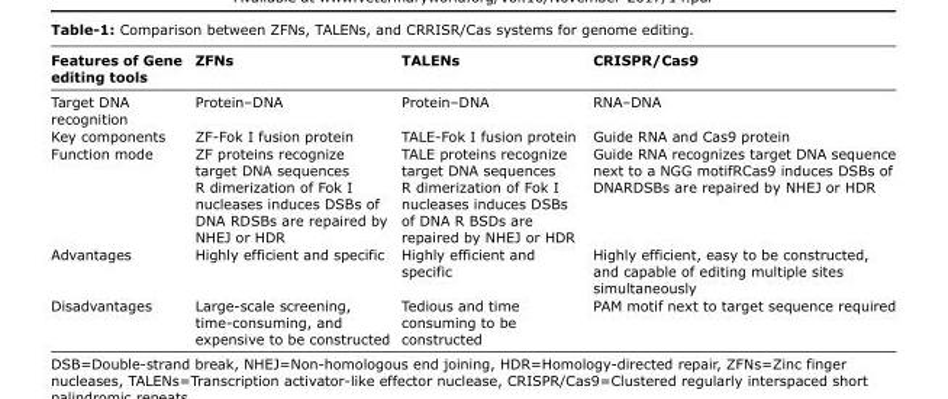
<table><thead><tr><td>Features of Gene editing tools</td><td>ZFNs</td><td>TALENs</td><td>CRISPR/Cas9</td></tr></thead><tbody><tr><td>Target DNA recognition</td><td>Protein–DNA</td><td>Protein–DNA</td><td>RNA–DNA</td></tr><tr><td>Key components</td><td>ZF-Fok I fusion protein</td><td>TALE-Fok I fusion protein</td><td>Guide RNA and Cas9 protein</td></tr><tr><td>Function mode</td><td>ZF proteins recognize target DNA sequences R dimerization of Fok I nucleases induces DSBs of DNA RDSBs are repaired by NHEJ or HDR</td><td>TALE proteins recognize target DNA sequences R dimerization of Fok I nucleases induces DSBs of DNA R BSDs are repaired by NHEJ or HDR</td><td>Guide RNA recognizes target DNA sequence next to a NGG motifRCas9 induces DSBs of DNARDSBs are repaired by NHEJ or HDR</td></tr><tr><td>Advantages</td><td>Highly efficient and specific</td><td>Highly efficient and specific</td><td>Highly efficient, easy to be constructed, and capable of editing multiple sites simultaneously</td></tr><tr><td>Disadvantages</td><td>Large-scale screening, time-consuming, and expensive to be constructed</td><td>Tedious and time consuming to be constructed</td><td>PAM motif next to target sequence required</td></tr></tbody></table>